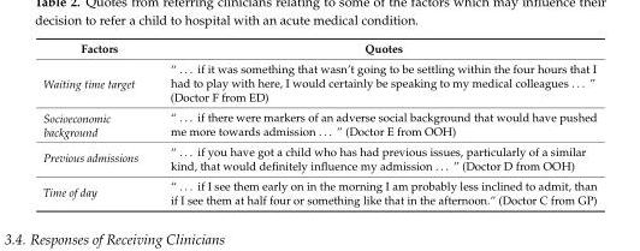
<table><thead><tr><td>Factors</td><td>Quotes</td></tr></thead><tbody><tr><td>Waiting time target</td><td>“ . . . if it was something that wasn’t going to be settling within the four hours that I had to play with here, I would certainly be speaking to my medical colleagues . . . ” (Doctor F from ED)</td></tr><tr><td>Socioeconomic background</td><td>“ . . . if there were markers of an adverse social background that would have pushed me more towards admission . . . ” (Doctor E from OOH)</td></tr><tr><td>Previous admissions</td><td>“ . . . if you have got a child who has had previous issues, particularly of a similar kind, that would definitely influence my admission . . . ” (Doctor D from OOH)</td></tr><tr><td>Time of day</td><td>“ . . . if I see them early on in the morning I am probably less inclined to admit, than if I see them at half four or something like that in the afternoon.” (Doctor C from GP)</td></tr></tbody></table>